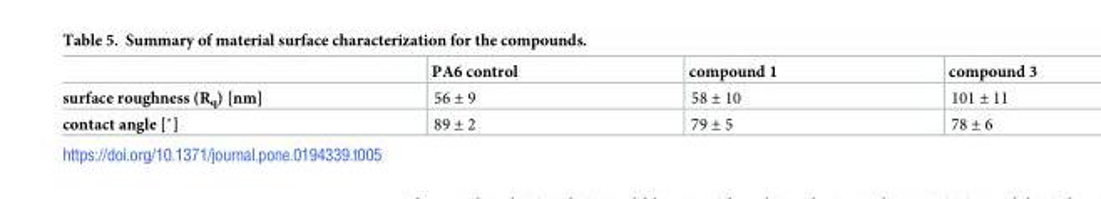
<table><thead><tr><td></td><td>PA6 control</td><td>compound 1</td><td>compound 3</td></tr></thead><tbody><tr><td>surface roughness (R<sub>q</sub>) [nm]</td><td>56 ± 9</td><td>58 ± 10</td><td>101 ± 11</td></tr><tr><td>contact angle [˚]</td><td>89 ± 2</td><td>79 ± 5</td><td>78 ± 6</td></tr></tbody></table>